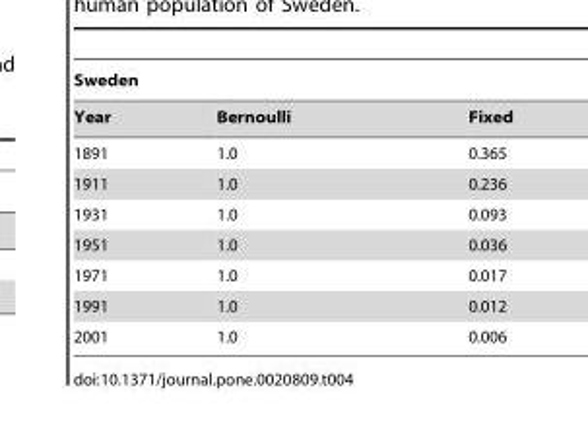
<table><thead><tr><td colspan="3">Sweden</td></tr><tr><td>Year</td><td>Bernoulli</td><td>Fixed</td></tr></thead><tbody><tr><td>1891</td><td>1.0</td><td>0.365</td></tr><tr><td>1911</td><td>1.0</td><td>0.236</td></tr><tr><td>1931</td><td>1.0</td><td>0.093</td></tr><tr><td>1951</td><td>1.0</td><td>0.036</td></tr><tr><td>1971</td><td>1.0</td><td>0.017</td></tr><tr><td>1991</td><td>1.0</td><td>0.012</td></tr><tr><td>2001</td><td>1.0</td><td>0.006</td></tr></tbody></table>